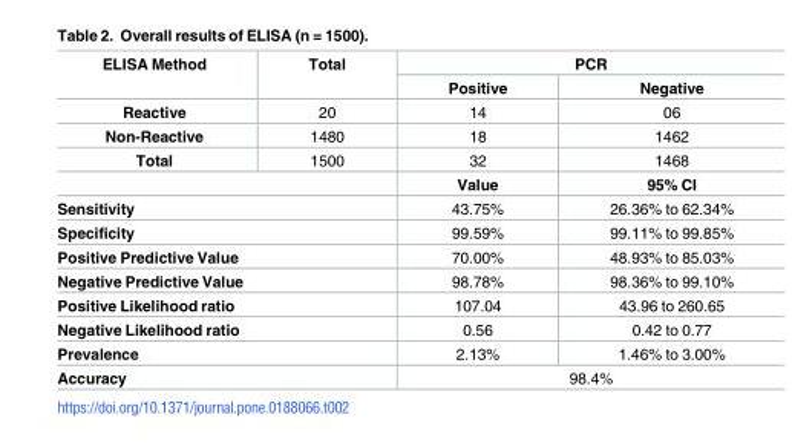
<table><thead><tr><td rowspan="2">ELISA Method</td><td rowspan="2">Total</td><td colspan="2">PCR</td></tr><tr><td>Positive</td><td>Negative</td></tr></thead><tbody><tr><td>Reactive</td><td>20</td><td>14</td><td>06</td></tr><tr><td>Non-Reactive</td><td>1480</td><td>18</td><td>1462</td></tr><tr><td>Total</td><td>1500</td><td>32</td><td>1468</td></tr><tr><td colspan="2"></td><td>Value</td><td>95% CI</td></tr><tr><td colspan="2">Sensitivity</td><td>43.75%</td><td>26.36% to 62.34%</td></tr><tr><td colspan="2">Specificity</td><td>99.59%</td><td>99.11% to 99.85%</td></tr><tr><td colspan="2">Positive Predictive Value</td><td>70.00%</td><td>48.93% to 85.03%</td></tr><tr><td colspan="2">Negative Predictive Value</td><td>98.78%</td><td>98.36% to 99.10%</td></tr><tr><td colspan="2">Positive Likelihood ratio</td><td>107.04</td><td>43.96 to 260.65</td></tr><tr><td colspan="2">Negative Likelihood ratio</td><td>0.56</td><td>0.42 to 0.77</td></tr><tr><td colspan="2">Prevalence</td><td>2.13%</td><td>1.46% to 3.00%</td></tr><tr><td colspan="2">Accuracy</td><td colspan="2">98.4%</td></tr></tbody></table>